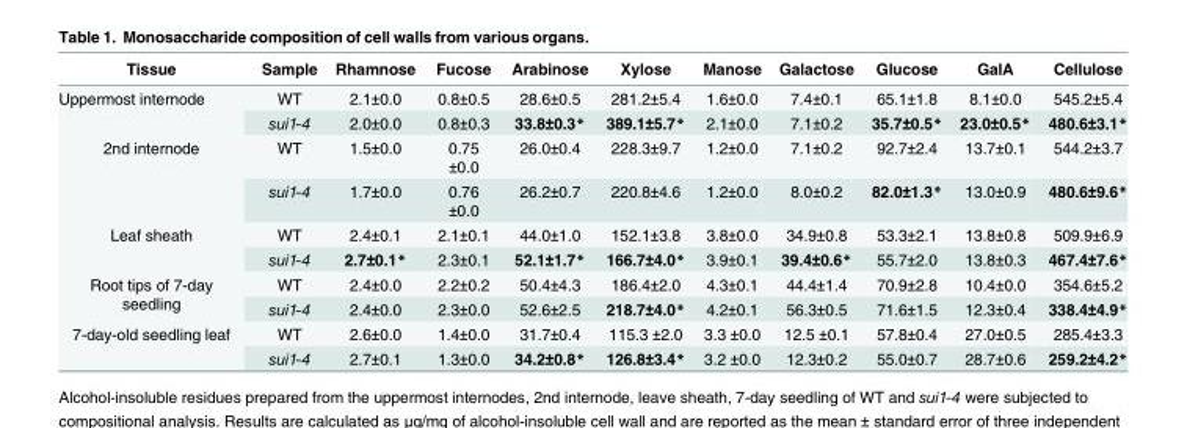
<table><thead><tr><td>Tissue</td><td>Sample</td><td>Rhamnose</td><td>Fucose</td><td>Arabinose</td><td>Xylose</td><td>Manose</td><td>Galactose</td><td>Glucose</td><td>GalA</td><td>Cellulose</td></tr></thead><tbody><tr><td rowspan="2">Uppermost internode</td><td>WT</td><td>2.1±0.0</td><td>0.8±0.5</td><td>28.6±0.5</td><td>281.2±5.4</td><td>1.6±0.0</td><td>7.4±0.1</td><td>65.1±1.8</td><td>8.1±0.0</td><td>545.2±5.4</td></tr><tr><td>sui1-4</td><td>2.0±0.0</td><td>0.8±0.3</td><td>33.8±0.3*</td><td>389.1±5.7*</td><td>2.1±0.0</td><td>7.1±0.2</td><td>35.7±0.5*</td><td>23.0±0.5*</td><td>480.6±3.1*</td></tr><tr><td rowspan="2">2nd internode</td><td>WT</td><td>1.5±0.0</td><td>0.75 ±0.0</td><td>26.0±0.4</td><td>228.3±9.7</td><td>1.2±0.0</td><td>7.1±0.2</td><td>92.7±2.4</td><td>13.7±0.1</td><td>544.2±3.7</td></tr><tr><td>sui1-4</td><td>1.7±0.0</td><td>0.76 ±0.0</td><td>26.2±0.7</td><td>220.8±4.6</td><td>1.2±0.0</td><td>8.0±0.2</td><td>82.0±1.3*</td><td>13.0±0.9</td><td>480.6±9.6*</td></tr><tr><td rowspan="2">Leaf sheath</td><td>WT</td><td>2.4±0.1</td><td>2.1±0.1</td><td>44.0±1.0</td><td>152.1±3.8</td><td>3.8±0.0</td><td>34.9±0.8</td><td>53.3±2.1</td><td>13.8±0.8</td><td>509.9±6.9</td></tr><tr><td>sui1-4</td><td>2.7±0.1*</td><td>2.3±0.1</td><td>52.1±1.7*</td><td>166.7±4.0*</td><td>3.9±0.1</td><td>39.4±0.6*</td><td>55.7±2.0</td><td>13.8±0.3</td><td>467.4±7.6*</td></tr><tr><td rowspan="2">Root tips of 7-day seedling</td><td>WT</td><td>2.4±0.0</td><td>2.2±0.2</td><td>50.4±4.3</td><td>186.4±2.0</td><td>4.3±0.1</td><td>44.4±1.4</td><td>70.9±2.8</td><td>10.4±0.0</td><td>354.6±5.2</td></tr><tr><td>sui1-4</td><td>2.4±0.0</td><td>2.3±0.0</td><td>52.6±2.5</td><td>218.7±4.0*</td><td>4.2±0.1</td><td>56.3±0.5</td><td>71.6±1.5</td><td>12.3±0.4</td><td>338.4±4.9*</td></tr><tr><td rowspan="2">7-day-old seedling leaf</td><td>WT</td><td>2.6±0.0</td><td>1.4±0.0</td><td>31.7±0.4</td><td>115.3 ±2.0</td><td>3.3 ±0.0</td><td>12.5 ±0.1</td><td>57.8±0.4</td><td>27.0±0.5</td><td>285.4±3.3</td></tr><tr><td>sui1-4</td><td>2.7±0.1</td><td>1.3±0.0</td><td>34.2±0.8*</td><td>126.8±3.4*</td><td>3.2 ±0.0</td><td>12.3±0.2</td><td>55.0±0.7</td><td>28.7±0.6</td><td>259.2±4.2*</td></tr></tbody></table>